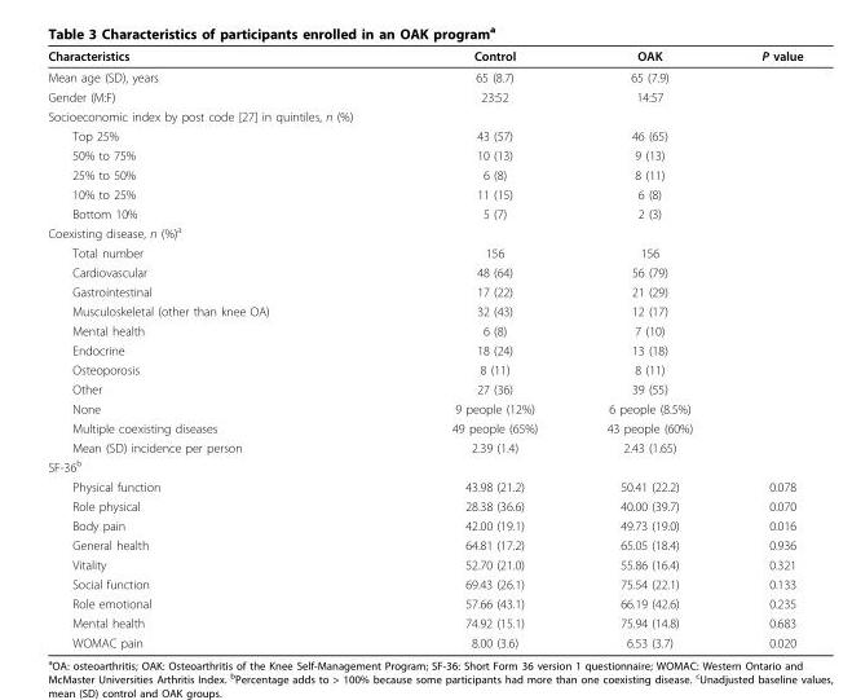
<table><thead><tr><td>Characteristics</td><td>Control</td><td>OAK</td><td>P value</td></tr></thead><tbody><tr><td>Mean age (SD), years</td><td>65 (8.7)</td><td>65 (7.9)</td><td></td></tr><tr><td>Gender (M:F)</td><td>23:52</td><td>14:57</td><td></td></tr><tr><td colspan="4">Socioeconomic index by post code [27] in quintiles, n (%)</td></tr><tr><td>Top 25%</td><td>43 (57)</td><td>46 (65)</td><td></td></tr><tr><td>50% to 75%</td><td>10 (13)</td><td>9 (13)</td><td></td></tr><tr><td>25% to 50%</td><td>6 (8)</td><td>8 (11)</td><td></td></tr><tr><td>10% to 25%</td><td>11 (15)</td><td>6 (8)</td><td></td></tr><tr><td>Bottom 10%</td><td>5 (7)</td><td>2 (3)</td><td></td></tr><tr><td colspan="4">Coexisting disease, n (%)<sup>a</sup></td></tr><tr><td>Total number</td><td>156</td><td>156</td><td></td></tr><tr><td>Cardiovascular</td><td>48 (64)</td><td>56 (79)</td><td></td></tr><tr><td>Gastrointestinal</td><td>17 (22)</td><td>21 (29)</td><td></td></tr><tr><td>Musculoskeletal (other than knee OA)</td><td>32 (43)</td><td>12 (17)</td><td></td></tr><tr><td>Mental health</td><td>6 (8)</td><td>7 (10)</td><td></td></tr><tr><td>Endocrine</td><td>18 (24)</td><td>13 (18)</td><td></td></tr><tr><td>Osteoporosis</td><td>8 (11)</td><td>8 (11)</td><td></td></tr><tr><td>Other</td><td>27 (36)</td><td>39 (55)</td><td></td></tr><tr><td>None</td><td>9 people (12%)</td><td>6 people (8.5%)</td><td></td></tr><tr><td>Multiple coexisting diseases</td><td>49 people (65%)</td><td>43 people (60%)</td><td></td></tr><tr><td>Mean (SD) incidence per person</td><td>2.39 (1.4)</td><td>2.43 (1.65)</td><td></td></tr><tr><td colspan="4">SF-36<sup>b</sup></td></tr><tr><td>Physical function</td><td>43.98 (21.2)</td><td>50.41 (22.2)</td><td>0.078</td></tr><tr><td>Role physical</td><td>28.38 (36.6)</td><td>40.00 (39.7)</td><td>0.070</td></tr><tr><td>Body pain</td><td>42.00 (19.1)</td><td>49.73 (19.0)</td><td>0.016</td></tr><tr><td>General health</td><td>64.81 (17.2)</td><td>65.05 (18.4)</td><td>0.936</td></tr><tr><td>Vitality</td><td>52.70 (21.0)</td><td>55.86 (16.4)</td><td>0.321</td></tr><tr><td>Social function</td><td>69.43 (26.1)</td><td>75.54 (22.1)</td><td>0.133</td></tr><tr><td>Role emotional</td><td>57.66 (43.1)</td><td>66.19 (42.6)</td><td>0.235</td></tr><tr><td>Mental health</td><td>74.92 (15.1)</td><td>75.94 (14.8)</td><td>0.683</td></tr><tr><td>WOMAC pain</td><td>8.00 (3.6)</td><td>6.53 (3.7)</td><td>0.020</td></tr></tbody></table>